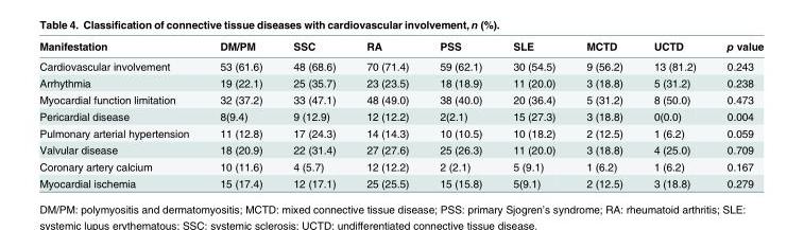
<table><thead><tr><td>Manifestation</td><td>DM/PM</td><td>SSC</td><td>RA</td><td>PSS</td><td>SLE</td><td>MCTD</td><td>UCTD</td><td>p value</td></tr></thead><tbody><tr><td>Cardiovascular involvement</td><td>53 (61.6)</td><td>48 (68.6)</td><td>70 (71.4)</td><td>59 (62.1)</td><td>30 (54.5)</td><td>9 (56.2)</td><td>13 (81.2)</td><td>0.243</td></tr><tr><td>Arrhythmia</td><td>19 (22.1)</td><td>25 (35.7)</td><td>23 (23.5)</td><td>18 (18.9)</td><td>11 (20.0)</td><td>3 (18.8)</td><td>5 (31.2)</td><td>0.238</td></tr><tr><td>Myocardial function limitation</td><td>32 (37.2)</td><td>33 (47.1)</td><td>48 (49.0)</td><td>38 (40.0)</td><td>20 (36.4)</td><td>5 (31.2)</td><td>8 (50.0)</td><td>0.473</td></tr><tr><td>Pericardial disease</td><td>8(9.4)</td><td>9 (12.9)</td><td>12 (12.2)</td><td>2(2.1)</td><td>15 (27.3)</td><td>3 (18.8)</td><td>0(0.0)</td><td>0.004</td></tr><tr><td>Pulmonary arterial hypertension</td><td>11 (12.8)</td><td>17 (24.3)</td><td>14 (14.3)</td><td>10 (10.5)</td><td>10 (18.2)</td><td>2 (12.5)</td><td>1 (6.2)</td><td>0.059</td></tr><tr><td>Valvular disease</td><td>18 (20.9)</td><td>22 (31.4)</td><td>27 (27.6)</td><td>25 (26.3)</td><td>11 (20.0)</td><td>3 (18.8)</td><td>4 (25.0)</td><td>0.709</td></tr><tr><td>Coronary artery calcium</td><td>10 (11.6)</td><td>4 (5.7)</td><td>12 (12.2)</td><td>2 (2.1)</td><td>5 (9.1)</td><td>1 (6.2)</td><td>1 (6.2)</td><td>0.167</td></tr><tr><td>Myocardial ischemia</td><td>15 (17.4)</td><td>12 (17.1)</td><td>25 (25.5)</td><td>15 (15.8)</td><td>5(9.1)</td><td>2 (12.5)</td><td>3 (18.8)</td><td>0.279</td></tr></tbody></table>